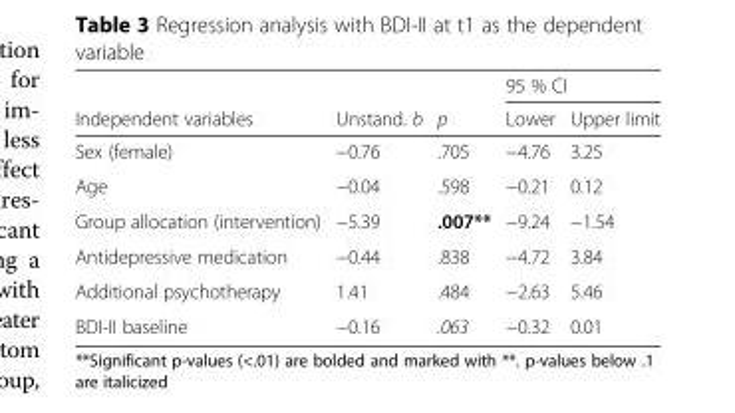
<table><thead><tr><td rowspan="2">Independent variables</td><td rowspan="2">Unstand. b</td><td rowspan="2">p</td><td colspan="2">95 % CI</td></tr><tr><td>Lower</td><td>Upper limit</td></tr></thead><tbody><tr><td>Sex (female)</td><td>−0.76</td><td>.705</td><td>−4.76</td><td>3.25</td></tr><tr><td>Age</td><td>−0.04</td><td>.598</td><td>−0.21</td><td>0.12</td></tr><tr><td>Group allocation (intervention)</td><td>−5.39</td><td>.007**</td><td>−9.24</td><td>−1.54</td></tr><tr><td>Antidepressive medication</td><td>−0.44</td><td>.838</td><td>−4.72</td><td>3.84</td></tr><tr><td>Additional psychotherapy</td><td>1.41</td><td>.484</td><td>−2.63</td><td>5.46</td></tr><tr><td>BDI-II baseline</td><td>−0.16</td><td>.063</td><td>−0.32</td><td>0.01</td></tr></tbody></table>